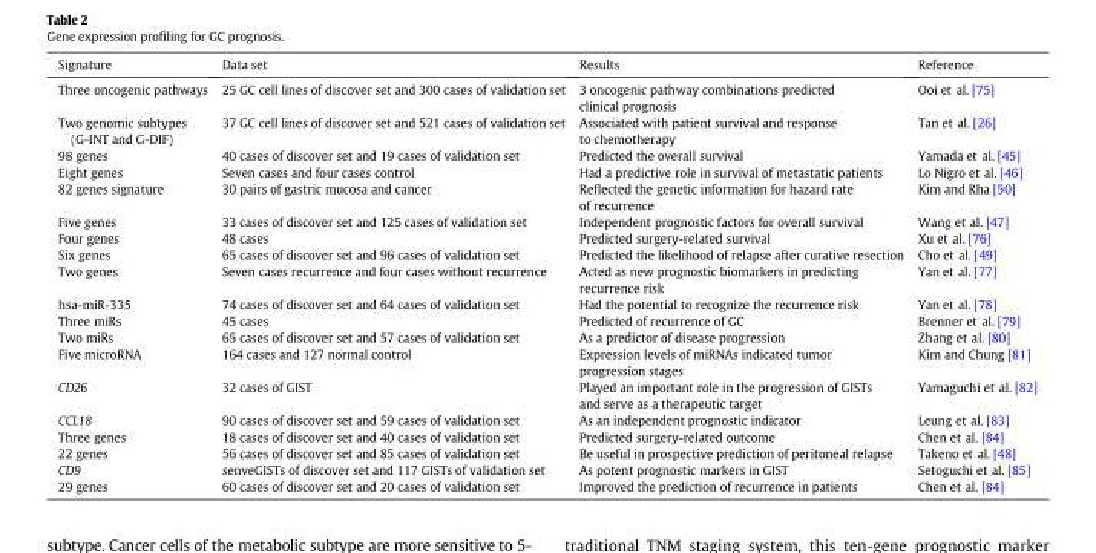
<table><thead><tr><td>Signature</td><td>Data set</td><td>Results</td><td>Reference</td></tr></thead><tbody><tr><td>Three oncogenic pathways</td><td>25 GC cell lines of discover set and 300 cases of validation set</td><td>3 oncogenic pathway combinations predicted clinical prognosis</td><td>Ooi et al. [75]</td></tr><tr><td>Two genomic subtypes (G-INT and G-DIF)</td><td>37 GC cell lines of discover set and 521 cases of validation set</td><td>Associated with patient survival and response to chemotherapy</td><td>Tan et al. [26]</td></tr><tr><td>98 genes</td><td>40 cases of discover set and 19 cases of validation set</td><td>Predicted the overall survival</td><td>Yamada et al. [45]</td></tr><tr><td>Eight genes</td><td>Seven cases and four cases control</td><td>Had a predictive role in survival of metastatic patients</td><td>Lo Nigro et al. [46]</td></tr><tr><td>82 genes signature</td><td>30 pairs of gastric mucosa and cancer</td><td>Reflected the genetic information for hazard rate of recurrence</td><td>Kim and Rha [50]</td></tr><tr><td>Five genes</td><td>33 cases of discover set and 125 cases of validation set</td><td>Independent prognostic factors for overall survival</td><td>Wang et al. [47]</td></tr><tr><td>Four genes</td><td>48 cases</td><td>Predicted surgery-related survival</td><td>Xu et al. [76]</td></tr><tr><td>Six genes</td><td>65 cases of discover set and 96 cases of validation set</td><td>Predicted the likelihood of relapse after curative resection</td><td>Cho et al. [49]</td></tr><tr><td>Two genes</td><td>Seven cases recurrence and four cases without recurrence</td><td>Acted as new prognostic biomarkers in predicting recurrence risk</td><td>Yan et al. [77]</td></tr><tr><td>hsa-miR-335</td><td>74 cases of discover set and 64 cases of validation set</td><td>Had the potential to recognize the recurrence risk</td><td>Yan et al. [78]</td></tr><tr><td>Three miRs</td><td>45 cases</td><td>Predicted of recurrence of GC</td><td>Brenner et al. [79]</td></tr><tr><td>Two miRs</td><td>65 cases of discover set and 57 cases of validation set</td><td>As a predictor of disease progression</td><td>Zhang et al. [80]</td></tr><tr><td>Five microRNA</td><td>164 cases and 127 normal control</td><td>Expression levels of miRNAs indicated tumor progression stages</td><td>Kim and Chung [81]</td></tr><tr><td>CD26</td><td>32 cases of GIST</td><td>Played an important role in the progression of GISTs and serve as a therapeutic target</td><td>Yamaguchi et al. [82]</td></tr><tr><td>CCL18</td><td>90 cases of discover set and 59 cases of validation set</td><td>As an independent prognostic indicator</td><td>Leung et al. [83]</td></tr><tr><td>Three genes</td><td>18 cases of discover set and 40 cases of validation set</td><td>Predicted surgery-related outcome</td><td>Chen et al. [84]</td></tr><tr><td>22 genes</td><td>56 cases of discover set and 85 cases of validation set</td><td>Be useful in prospective prediction of peritoneal relapse</td><td>Takeno et al. [48]</td></tr><tr><td>CD9</td><td>senveGISTs of discover set and 117 GISTs of validation set</td><td>As potent prognostic markers in GIST</td><td>Setoguchi et al. [85]</td></tr><tr><td>29 genes</td><td>60 cases of discover set and 20 cases of validation set</td><td>Improved the prediction of recurrence in patients</td><td>Chen et al. [84]</td></tr></tbody></table>